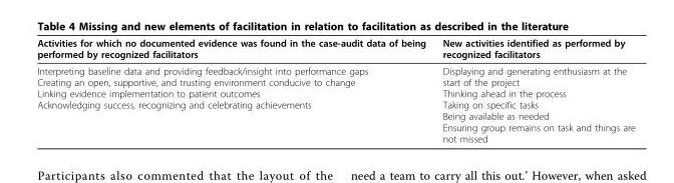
<table><thead><tr><td>Activities for which no documented evidence was found in the case-audit data of being performed by recognized facilitators</td><td>New activities identified as performed by recognized facilitators</td></tr></thead><tbody><tr><td>Interpreting baseline data and providing feedback/insight into performance gaps Creating an open, supportive, and trusting environment conducive to change Linking evidence implementation to patient outcomes Acknowledging success, recognizing and celebrating achievements</td><td>Displaying and generating enthusiasm at the start of the project Thinking ahead in the process Taking on specific tasks Being available as needed Ensuring group remains on task and things are not missed</td></tr></tbody></table>